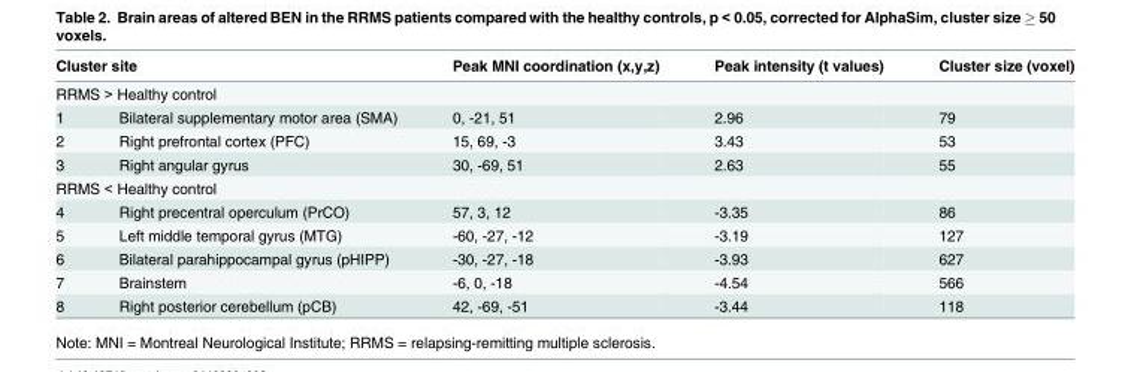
<table><thead><tr><td colspan="2">Cluster site</td><td>Peak MNI coordination (x,y,z)</td><td>Peak intensity (t values)</td><td>Cluster size (voxel)</td></tr><tr><td colspan="5">RRMS &gt; Healthy control</td></tr><tr><td>1</td><td>Bilateral supplementary motor area (SMA)</td><td>0, -21, 51</td><td>2.96</td><td>79</td></tr></thead><tbody><tr><td>2</td><td>Right prefrontal cortex (PFC)</td><td>15, 69, -3</td><td>3.43</td><td>53</td></tr><tr><td>3</td><td>Right angular gyrus</td><td>30, -69, 51</td><td>2.63</td><td>55</td></tr><tr><td colspan="5">RRMS &lt; Healthy control</td></tr><tr><td>4</td><td>Right precentral operculum (PrCO)</td><td>57, 3, 12</td><td>-3.35</td><td>86</td></tr><tr><td>5</td><td>Left middle temporal gyrus (MTG)</td><td>-60, -27, -12</td><td>-3.19</td><td>127</td></tr><tr><td>6</td><td>Bilateral parahippocampal gyrus (pHIPP)</td><td>-30, -27, -18</td><td>-3.93</td><td>627</td></tr><tr><td>7</td><td>Brainstem</td><td>-6, 0, -18</td><td>-4.54</td><td>566</td></tr><tr><td>8</td><td>Right posterior cerebellum (pCB)</td><td>42, -69, -51</td><td>-3.44</td><td>118</td></tr></tbody></table>